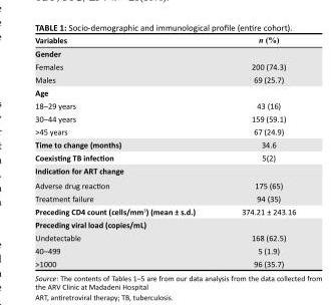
<table><thead><tr><td>Variables</td><td>n (%)</td></tr></thead><tbody><tr><td colspan="2">Gender</td></tr><tr><td>Females</td><td>200 (74.3)</td></tr><tr><td>Males</td><td>69 (25.7)</td></tr><tr><td colspan="2">Age</td></tr><tr><td>18–29 years</td><td>43 (16)</td></tr><tr><td>30–44 years</td><td>159 (59.1)</td></tr><tr><td>&gt;45 years</td><td>67 (24.9)</td></tr><tr><td>Time to change (months)</td><td>34.6</td></tr><tr><td>Coexisting TB infection</td><td>5(2)</td></tr><tr><td colspan="2">Indication for ART change</td></tr><tr><td>Adverse drug reaction</td><td>175 (65)</td></tr><tr><td>Treatment failure</td><td>94 (35)</td></tr><tr><td>Preceding CD4 count (cells/mm<sup>3</sup>) (mean ± s.d.)</td><td>374.21 ± 243.16</td></tr><tr><td colspan="2">Preceding viral load (copies/mL)</td></tr><tr><td>Undetectable</td><td>168 (62.5)</td></tr><tr><td>40–499</td><td>5 (1.9)</td></tr><tr><td>&gt;1000</td><td>96 (35.7)</td></tr></tbody></table>